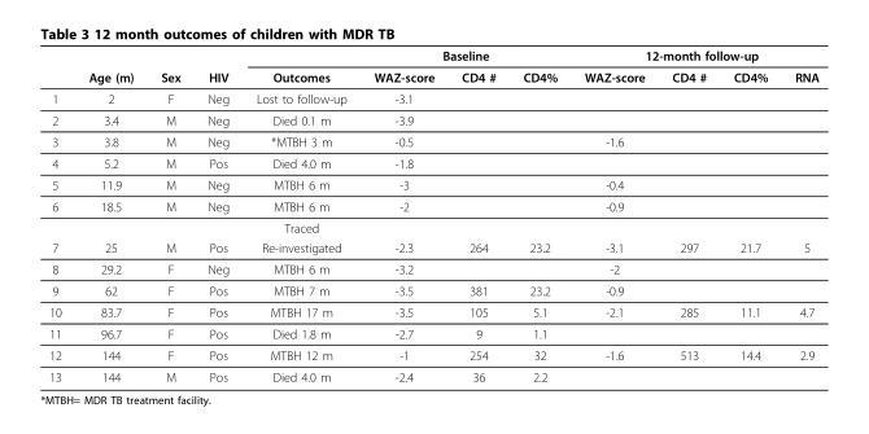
<table><thead><tr><td rowspan="2"></td><td rowspan="2">Age (m)</td><td rowspan="2">Sex</td><td rowspan="2">HIV</td><td rowspan="2">Outcomes</td><td colspan="3">Baseline</td><td colspan="4">12-month follow-up</td></tr><tr><td>WAZ-score</td><td>CD4 #</td><td>CD4%</td><td>WAZ-score</td><td>CD4 #</td><td>CD4%</td><td>RNA</td></tr></thead><tbody><tr><td>1</td><td>2</td><td>F</td><td>Neg</td><td>Lost to follow-up</td><td>-3.1</td><td></td><td></td><td></td><td></td><td></td><td></td></tr><tr><td>2</td><td>3.4</td><td>M</td><td>Neg</td><td>Died 0.1 m</td><td>-3.9</td><td></td><td></td><td></td><td></td><td></td><td></td></tr><tr><td>3</td><td>3.8</td><td>M</td><td>Neg</td><td>*MTBH 3 m</td><td>-0.5</td><td></td><td></td><td>-1.6</td><td></td><td></td><td></td></tr><tr><td>4</td><td>5.2</td><td>M</td><td>Pos</td><td>Died 4.0 m</td><td>-1.8</td><td></td><td></td><td></td><td></td><td></td><td></td></tr><tr><td>5</td><td>11.9</td><td>M</td><td>Neg</td><td>MTBH 6 m</td><td>-3</td><td></td><td></td><td>-0.4</td><td></td><td></td><td></td></tr><tr><td rowspan="2">6</td><td>18.5</td><td>M</td><td>Neg</td><td>MTBH 6 m</td><td>-2</td><td></td><td></td><td>-0.9</td><td></td><td></td><td></td></tr><tr><td></td><td></td><td></td><td>Traced</td><td></td><td></td><td></td><td></td><td></td><td></td><td></td></tr><tr><td>7</td><td>25</td><td>M</td><td>Pos</td><td>Re-investigated</td><td>-2.3</td><td>264</td><td>23.2</td><td>-3.1</td><td>297</td><td>21.7</td><td>5</td></tr><tr><td>8</td><td>29.2</td><td>F</td><td>Neg</td><td>MTBH 6 m</td><td>-3.2</td><td></td><td></td><td>-2</td><td></td><td></td><td></td></tr><tr><td>9</td><td>62</td><td>F</td><td>Pos</td><td>MTBH 7 m</td><td>-3.5</td><td>381</td><td>23.2</td><td>-0.9</td><td></td><td></td><td></td></tr><tr><td>10</td><td>83.7</td><td>F</td><td>Pos</td><td>MTBH 17 m</td><td>-3.5</td><td>105</td><td>5.1</td><td>-2.1</td><td>285</td><td>11.1</td><td>4.7</td></tr><tr><td>11</td><td>96.7</td><td>F</td><td>Pos</td><td>Died 1.8 m</td><td>-2.7</td><td>9</td><td>1.1</td><td></td><td></td><td></td><td></td></tr><tr><td>12</td><td>144</td><td>F</td><td>Pos</td><td>MTBH 12 m</td><td>-1</td><td>254</td><td>32</td><td>-1.6</td><td>513</td><td>14.4</td><td>2.9</td></tr><tr><td>13</td><td>144</td><td>M</td><td>Pos</td><td>Died 4.0 m</td><td>-2.4</td><td>36</td><td>2.2</td><td></td><td></td><td></td><td></td></tr></tbody></table>